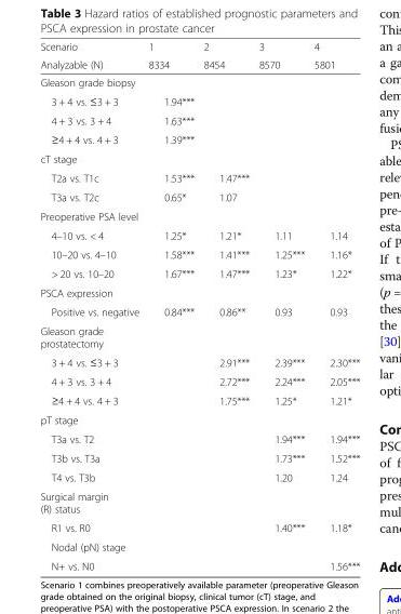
<table><thead><tr><td rowspan="2">Scenario Analyzable (N)</td><td rowspan="2">1 8334</td><td rowspan="2">2 8454</td><td rowspan="2">3 8570</td><td rowspan="2">4 5801</td></tr><tr></tr></thead><tbody><tr><td colspan="5">Gleason grade biopsy</td></tr><tr><td>3 + 4 vs. ≤3 + 3</td><td>1.94***</td><td></td><td></td><td></td></tr><tr><td>4 + 3 vs. 3 + 4</td><td>1.63***</td><td></td><td></td><td></td></tr><tr><td>≥4 + 4 vs. 4 + 3</td><td>1.39***</td><td></td><td></td><td></td></tr><tr><td colspan="5">cT stage</td></tr><tr><td>T2a vs. T1c</td><td>1.53***</td><td>1.47***</td><td></td><td></td></tr><tr><td>T3a vs. T2c</td><td>0.65*</td><td>1.07</td><td></td><td></td></tr><tr><td colspan="5">Preoperative PSA level</td></tr><tr><td>4–10 vs. &lt; 4</td><td>1.25*</td><td>1.21*</td><td>1.11</td><td>1.14</td></tr><tr><td>10–20 vs. 4–10</td><td>1.58***</td><td>1.41***</td><td>1.25***</td><td>1.16*</td></tr><tr><td>&gt; 20 vs. 10–20</td><td>1.67***</td><td>1.47***</td><td>1.23*</td><td>1.22*</td></tr><tr><td colspan="5">PSCA expression</td></tr><tr><td>Positive vs. negative</td><td>0.84***</td><td>0.86**</td><td>0.93</td><td>0.93</td></tr><tr><td colspan="5">Gleason grade prostatectomy</td></tr><tr><td>3 + 4 vs. ≤3 + 3</td><td></td><td>2.91***</td><td>2.39***</td><td>2.30***</td></tr><tr><td>4 + 3 vs. 3 + 4</td><td></td><td>2.72***</td><td>2.24***</td><td>2.05***</td></tr><tr><td>≥4 + 4 vs. 4 + 3</td><td></td><td>1.75***</td><td>1.25*</td><td>1.21*</td></tr><tr><td colspan="5">pT stage</td></tr><tr><td>T3a vs. T2</td><td></td><td></td><td>1.94***</td><td>1.94***</td></tr><tr><td>T3b vs. T3a</td><td></td><td></td><td>1.73***</td><td>1.52***</td></tr><tr><td>T4 vs. T3b</td><td></td><td></td><td>1.20</td><td>1.24</td></tr><tr><td colspan="5">Surgical margin (R) status</td></tr><tr><td>R1 vs. R0</td><td></td><td></td><td>1.40***</td><td>1.18*</td></tr><tr><td colspan="5">Nodal (pN) stage</td></tr><tr><td>N+ vs. N0</td><td></td><td></td><td></td><td>1.56***</td></tr></tbody></table>